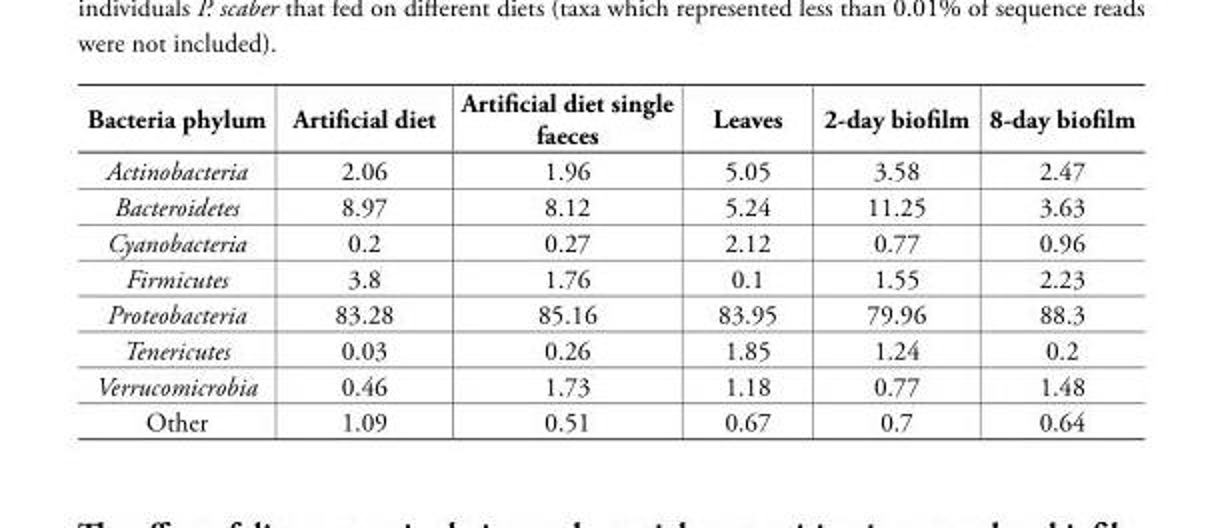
<table><thead><tr><td>Bacteria phylum</td><td>Artificial diet</td><td>Artificial diet single faeces</td><td>Leaves</td><td>2-day biofilm</td><td>8-day biofilm</td></tr></thead><tbody><tr><td>Actinobacteria</td><td>2.06</td><td>1.96</td><td>5.05</td><td>3.58</td><td>2.47</td></tr><tr><td>Bacteroidetes</td><td>8.97</td><td>8.12</td><td>5.24</td><td>11.25</td><td>3.63</td></tr><tr><td>Cyanobacteria</td><td>0.2</td><td>0.27</td><td>2.12</td><td>0.77</td><td>0.96</td></tr><tr><td>Firmicutes</td><td>3.8</td><td>1.76</td><td>0.1</td><td>1.55</td><td>2.23</td></tr><tr><td>Proteobacteria</td><td>83.28</td><td>85.16</td><td>83.95</td><td>79.96</td><td>88.3</td></tr><tr><td>Tenericutes</td><td>0.03</td><td>0.26</td><td>1.85</td><td>1.24</td><td>0.2</td></tr><tr><td>Verrucomicrobia</td><td>0.46</td><td>1.73</td><td>1.18</td><td>0.77</td><td>1.48</td></tr><tr><td>Other</td><td>1.09</td><td>0.51</td><td>0.67</td><td>0.7</td><td>0.64</td></tr></tbody></table>